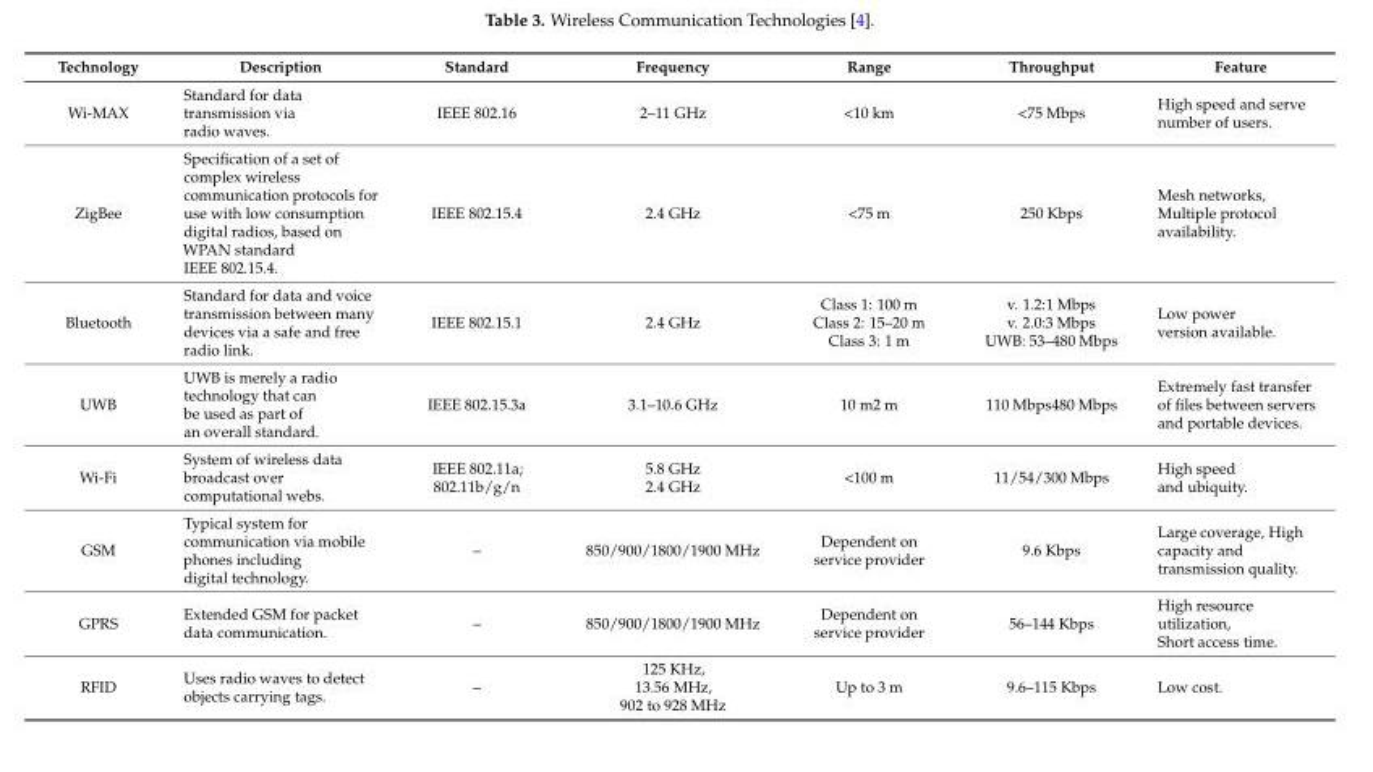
<table><thead><tr><td>Technology</td><td>Description</td><td>Standard</td><td>Frequency</td><td>Range</td><td>Throughput</td><td>Feature</td></tr></thead><tbody><tr><td>Wi-MAX</td><td>Standard for data transmission via radio waves.</td><td>IEEE 802.16</td><td>2–11 GHz</td><td>&lt;10 km</td><td>&lt;75 Mbps</td><td>High speed and serve number of users.</td></tr><tr><td>ZigBee</td><td>Specification of a set of complex wireless communication protocols for use with low consumption digital radios, based on WPAN standard IEEE 802.15.4.</td><td>IEEE 802.15.4</td><td>2.4 GHz</td><td>&lt;75 m</td><td>250 Kbps</td><td>Mesh networks, Multiple protocol availability.</td></tr><tr><td>Bluetooth</td><td>Standard for data and voice transmission between many devices via a safe and free radio link.</td><td>IEEE 802.15.1</td><td>2.4 GHz</td><td>Class 1: 100 m Class 2: 15–20 m Class 3: 1 m</td><td>v. 1.2:1 Mbps v. 2.0:3 Mbps UWB: 53–480 Mbps</td><td>Low power version available.</td></tr><tr><td>UWB</td><td>UWB is merely a radio technology that can be used as part of an overall standard.</td><td>IEEE 802.15.3a</td><td>3.1–10.6 GHz</td><td>10 m2 m</td><td>110 Mbps480 Mbps</td><td>Extremely fast transfer of files between servers and portable devices.</td></tr><tr><td>Wi-Fi</td><td>System of wireless data broadcast over computational webs.</td><td>IEEE 802.11a; 802.11b/g/n</td><td>5.8 GHz 2.4 GHz</td><td>&lt;100 m</td><td>11/54/300 Mbps</td><td>High speed and ubiquity.</td></tr><tr><td>GSM</td><td>Typical system for communication via mobile phones including digital technology.</td><td>–</td><td>850/900/1800/1900 MHz</td><td>Dependent on service provider</td><td>9.6 Kbps</td><td>Large coverage, High capacity and transmission quality.</td></tr><tr><td>GPRS</td><td>Extended GSM for packet data communication.</td><td>–</td><td>850/900/1800/1900 MHz</td><td>Dependent on service provider</td><td>56–144 Kbps</td><td>High resource utilization, Short access time.</td></tr><tr><td>RFID</td><td>Uses radio waves to detect objects carrying tags.</td><td>–</td><td>125 KHz, 13.56 MHz, 902 to 928 MHz</td><td>Up to 3 m</td><td>9.6–115 Kbps</td><td>Low cost.</td></tr></tbody></table>